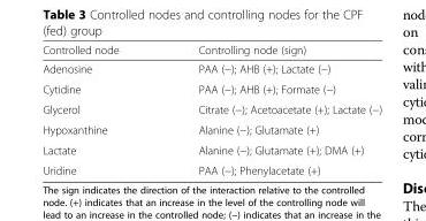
<table><thead><tr><td>Controlled node</td><td>Controlling node (sign)</td></tr></thead><tbody><tr><td>Adenosine</td><td>PAA (−); AHB (+); Lactate (−)</td></tr><tr><td>Cytidine</td><td>PAA (−); AHB (+); Formate (−)</td></tr><tr><td>Glycerol</td><td>Citrate (−); Acetoacetate (+); Lactate (−)</td></tr><tr><td>Hypoxanthine</td><td>Alanine (−); Glutamate (+)</td></tr><tr><td>Lactate</td><td>Alanine (−); Glutamate (+); DMA (+)</td></tr><tr><td>Uridine</td><td>PAA (−); Phenylacetate (+)</td></tr></tbody></table>